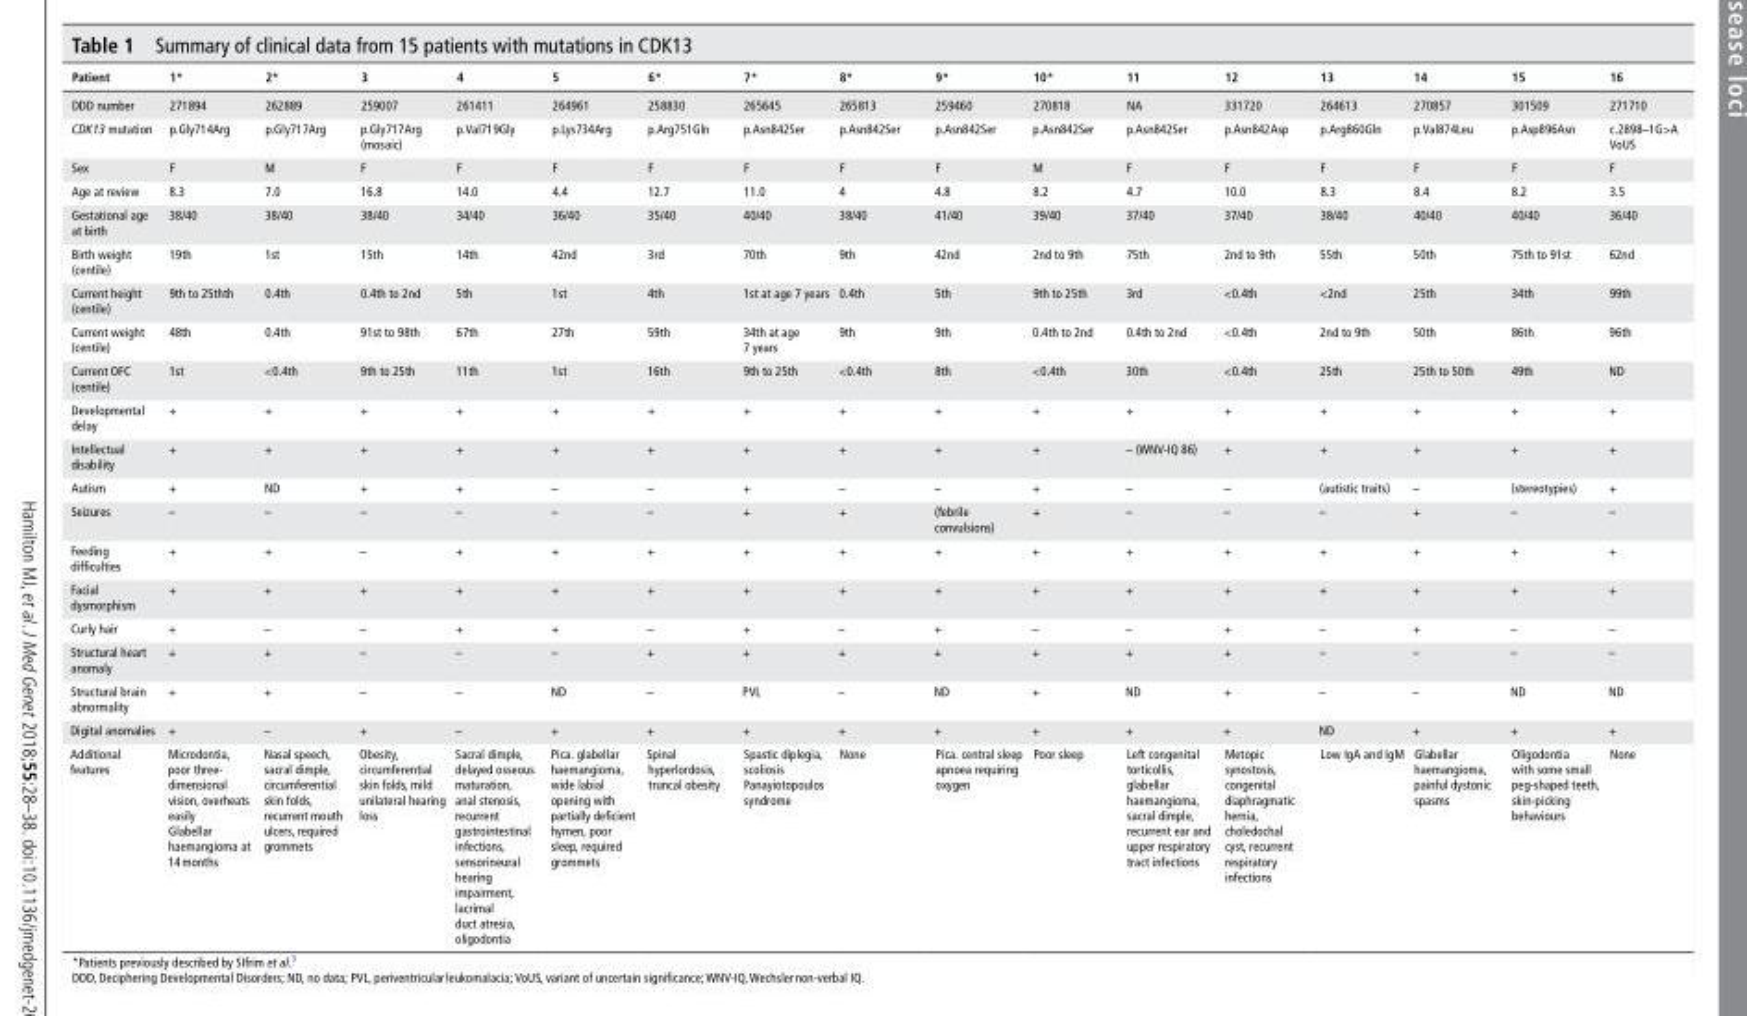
<table><thead><tr><td>Patient</td><td>1*</td><td>2*</td><td>3</td><td>4</td><td>5</td><td>6*</td><td>7*</td><td>8*</td><td>9*</td><td>10*</td><td>11</td><td>12</td><td>13</td><td>14</td><td>15</td><td>16</td></tr></thead><tbody><tr><td>DDD number</td><td>271894</td><td>262889</td><td>259007</td><td>261411</td><td>264961</td><td>258830</td><td>265645</td><td>265813</td><td>259460</td><td>270818</td><td>NA</td><td>331720</td><td>264613</td><td>270857</td><td>301509</td><td>271710</td></tr><tr><td>CDK13 mutation</td><td>p.Gly714Arg</td><td>p.Gly717Arg</td><td>p.Gly717Arg (mosaic)</td><td>p.Val719Gly</td><td>p.Lys734Arg</td><td>p.Arg751Gln</td><td>p.Asn842Ser</td><td>p.Asn842Ser</td><td>p.Asn842Ser</td><td>p.Asn842Ser</td><td>p.Asn842Ser</td><td>p.Asn842Asp</td><td>p.Arg860Gln</td><td>p.Val874Leu</td><td>p.Asp896Asn</td><td>c.2898–1G&gt;A VoUS</td></tr><tr><td>Sex</td><td>F</td><td>M</td><td>F</td><td>F</td><td>F</td><td>F</td><td>F</td><td>F</td><td>F</td><td>M</td><td>F</td><td>F</td><td>F</td><td>F</td><td>F</td><td>F</td></tr><tr><td>Age at review</td><td>8.3</td><td>7.0</td><td>16.8</td><td>14.0</td><td>4.4</td><td>12.7</td><td>11.0</td><td>4</td><td>4.8</td><td>8.2</td><td>4.7</td><td>10.0</td><td>8.3</td><td>8.4</td><td>8.2</td><td>3.5</td></tr><tr><td>Gestational age at birth</td><td>38/40</td><td>38/40</td><td>38/40</td><td>34/40</td><td>36/40</td><td>35/40</td><td>40/40</td><td>38/40</td><td>41/40</td><td>39/40</td><td>37/40</td><td>37/40</td><td>38/40</td><td>40/40</td><td>40/40</td><td>36/40</td></tr><tr><td>Birth weight (centile)</td><td>19th</td><td>1st</td><td>15th</td><td>14th</td><td>42nd</td><td>3rd</td><td>70th</td><td>9th</td><td>42nd</td><td>2nd to 9th</td><td>75th</td><td>2nd to 9th</td><td>55th</td><td>50th</td><td>75th to 91st</td><td>62nd</td></tr><tr><td>Current height (centile)</td><td>9th to 25thth</td><td>0.4th</td><td>0.4th to 2nd</td><td>5th</td><td>1st</td><td>4th</td><td>1st at age 7 years</td><td>0.4th</td><td>5th</td><td>9th to 25th</td><td>3rd</td><td>&lt;0.4th</td><td>&lt;2nd</td><td>25th</td><td>34th</td><td>99th</td></tr><tr><td>Current weight (centile)</td><td>48th</td><td>0.4th</td><td>91st to 98th</td><td>67th</td><td>27th</td><td>59th</td><td>34th at age 7 years</td><td>9th</td><td>9th</td><td>0.4th to 2nd</td><td>0.4th to 2nd</td><td>&lt;0.4th</td><td>2nd to 9th</td><td>50th</td><td>86th</td><td>96th</td></tr><tr><td>Current OFC (centile)</td><td>1st</td><td>&lt;0.4th</td><td>9th to 25th</td><td>11th</td><td>1st</td><td>16th</td><td>9th to 25th</td><td>&lt;0.4th</td><td>8th</td><td>&lt;0.4th</td><td>30th</td><td>&lt;0.4th</td><td>25th</td><td>25th to 50th</td><td>49th</td><td>ND</td></tr><tr><td>Developmental delay</td><td>+</td><td>+</td><td>+</td><td>+</td><td>+</td><td>+</td><td>+</td><td>+</td><td>+</td><td>+</td><td>+</td><td>+</td><td>+</td><td>+</td><td>+</td><td>+</td></tr><tr><td>Intellectual disability</td><td>+</td><td>+</td><td>+</td><td>+</td><td>+</td><td>+</td><td>+</td><td>+</td><td>+</td><td>+</td><td>– (WNV-IQ 86)</td><td>+</td><td>+</td><td>+</td><td>+</td><td>+</td></tr><tr><td>Autism</td><td>+</td><td>ND</td><td>+</td><td>+</td><td>–</td><td>–</td><td>+</td><td>–</td><td>–</td><td>+</td><td>–</td><td>–</td><td>(autistic traits)</td><td>–</td><td>(stereotypies)</td><td>+</td></tr><tr><td>Seizures</td><td>–</td><td>–</td><td>–</td><td>–</td><td>–</td><td>–</td><td>+</td><td>+</td><td>(febrile convulsions)</td><td>+</td><td>–</td><td>–</td><td>–</td><td>+</td><td>–</td><td>–</td></tr><tr><td>Feeding difficulties</td><td>+</td><td>+</td><td>–</td><td>+</td><td>+</td><td>+</td><td>+</td><td>+</td><td>+</td><td>+</td><td>+</td><td>+</td><td>+</td><td>+</td><td>+</td><td>+</td></tr><tr><td>Facial dysmorphism</td><td>+</td><td>+</td><td>+</td><td>+</td><td>+</td><td>+</td><td>+</td><td>+</td><td>+</td><td>+</td><td>+</td><td>+</td><td>+</td><td>+</td><td>+</td><td>+</td></tr><tr><td>Curly hair</td><td>+</td><td>–</td><td>–</td><td>+</td><td>+</td><td>–</td><td>+</td><td>–</td><td>+</td><td>–</td><td>–</td><td>+</td><td>–</td><td>+</td><td>–</td><td>–</td></tr><tr><td>Structural heart anomaly</td><td>+</td><td>+</td><td>–</td><td>–</td><td>–</td><td>+</td><td>+</td><td>+</td><td>+</td><td>+</td><td>+</td><td>+</td><td>–</td><td>–</td><td>–</td><td>–</td></tr><tr><td>Structural brain abnormality</td><td>+</td><td>+</td><td>–</td><td>–</td><td>ND</td><td>–</td><td>PVL</td><td>–</td><td>ND</td><td>+</td><td>ND</td><td>+</td><td>–</td><td>–</td><td>ND</td><td>ND</td></tr><tr><td>Digital anomalies</td><td>+</td><td>–</td><td>+</td><td>–</td><td>+</td><td>+</td><td>+</td><td>+</td><td>+</td><td>+</td><td>+</td><td>+</td><td>ND</td><td>+</td><td>+</td><td>+</td></tr><tr><td>Additional features</td><td>Microdontia, poor three- dimensional vision, overheats easily Glabellar haemangioma at 14 months</td><td>Nasal speech, sacral dimple, circumferential skin folds, recurrent mouth ulcers, required grommets</td><td>Obesity, circumferential skin folds, mild unilateral hearing loss</td><td>Sacral dimple, delayed osseous maturation, anal stenosis, recurrent gastrointestinal infections, sensorineural hearing impairment, lacrimal duct atresia, oligodontia</td><td>Pica. glabellar haemangioma, wide labial opening with partially deficient hymen, poor sleep, required grommets</td><td>Spinal hyperlordosis, truncal obesity</td><td>Spastic diplegia, scoliosis Panayiotopoulos syndrome</td><td>None</td><td>Pica. central sleep apnoea requiring oxygen</td><td>Poor sleep</td><td>Left congenital torticollis, glabellar haemangioma, sacral dimple, recurrent ear and upper respiratory tract infections</td><td>Metopic synostosis, congenital diaphragmatic hernia, choledochal cyst, recurrent respiratory infections</td><td>Low IgA and IgM</td><td>Glabellar haemangioma, painful dystonic spasms</td><td>Oligodontia with some small peg-shaped teeth, skin-picking behaviours</td><td>None</td></tr></tbody></table>